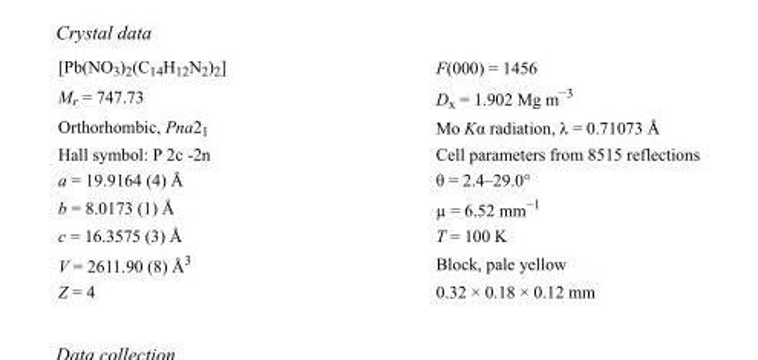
<table><tbody><tr><td>[Pb(NO<sub>3</sub>)<sub>2</sub>(C<sub>14</sub>H<sub>12</sub>N<sub>2</sub>)<sub>2</sub>]</td><td>F(000) = 1456</td></tr><tr><td>M<sub>r</sub> = 747.73</td><td>D<sub>x</sub> = 1.902 Mg m<sup>−3</sup></td></tr><tr><td>Orthorhombic, Pna2<sub>1</sub></td><td>Mo Kα radiation, λ = 0.71073 Å</td></tr><tr><td>Hall symbol: P 2c -2n</td><td>Cell parameters from 8515 reflections</td></tr><tr><td>a = 19.9164 (4) Å</td><td>θ = 2.4–29.0°</td></tr><tr><td>b = 8.0173 (1) Å</td><td>µ = 6.52 mm<sup>−1</sup></td></tr><tr><td>c = 16.3575 (3) Å</td><td>T = 100 K</td></tr><tr><td>V = 2611.90 (8) Å<sup>3</sup></td><td>Block, pale yellow</td></tr><tr><td>Z = 4</td><td>0.32 × 0.18 × 0.12 mm</td></tr></tbody></table>